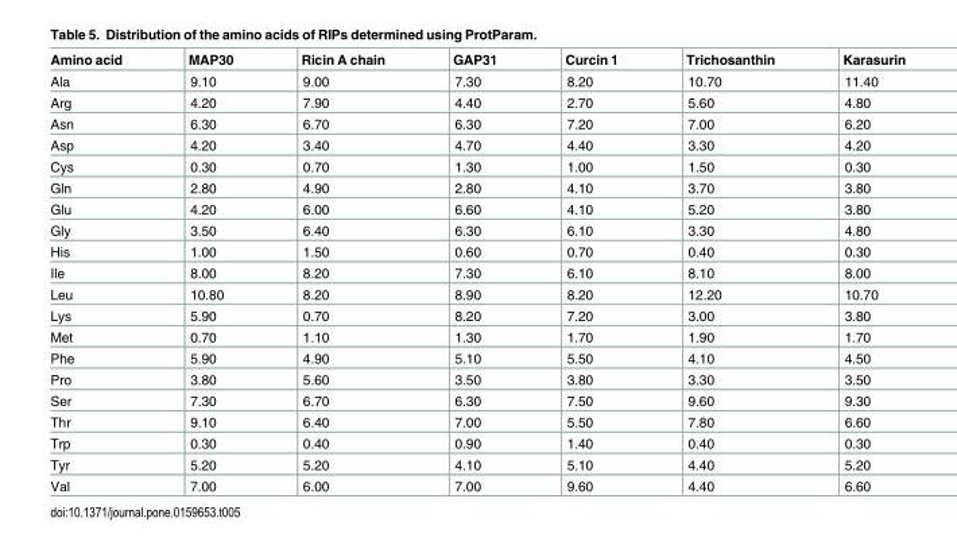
<table><thead><tr><td>Amino acid</td><td>MAP30</td><td>Ricin A chain</td><td>GAP31</td><td>Curcin 1</td><td>Trichosanthin</td><td>Karasurin</td></tr></thead><tbody><tr><td>Ala</td><td>9.10</td><td>9.00</td><td>7.30</td><td>8.20</td><td>10.70</td><td>11.40</td></tr><tr><td>Arg</td><td>4.20</td><td>7.90</td><td>4.40</td><td>2.70</td><td>5.60</td><td>4.80</td></tr><tr><td>Asn</td><td>6.30</td><td>6.70</td><td>6.30</td><td>7.20</td><td>7.00</td><td>6.20</td></tr><tr><td>Asp</td><td>4.20</td><td>3.40</td><td>4.70</td><td>4.40</td><td>3.30</td><td>4.20</td></tr><tr><td>Cys</td><td>0.30</td><td>0.70</td><td>1.30</td><td>1.00</td><td>1.50</td><td>0.30</td></tr><tr><td>Gln</td><td>2.80</td><td>4.90</td><td>2.80</td><td>4.10</td><td>3.70</td><td>3.80</td></tr><tr><td>Glu</td><td>4.20</td><td>6.00</td><td>6.60</td><td>4.10</td><td>5.20</td><td>3.80</td></tr><tr><td>Gly</td><td>3.50</td><td>6.40</td><td>6.30</td><td>6.10</td><td>3.30</td><td>4.80</td></tr><tr><td>His</td><td>1.00</td><td>1.50</td><td>0.60</td><td>0.70</td><td>0.40</td><td>0.30</td></tr><tr><td>Ile</td><td>8.00</td><td>8.20</td><td>7.30</td><td>6.10</td><td>8.10</td><td>8.00</td></tr><tr><td>Leu</td><td>10.80</td><td>8.20</td><td>8.90</td><td>8.20</td><td>12.20</td><td>10.70</td></tr><tr><td>Lys</td><td>5.90</td><td>0.70</td><td>8.20</td><td>7.20</td><td>3.00</td><td>3.80</td></tr><tr><td>Met</td><td>0.70</td><td>1.10</td><td>1.30</td><td>1.70</td><td>1.90</td><td>1.70</td></tr><tr><td>Phe</td><td>5.90</td><td>4.90</td><td>5.10</td><td>5.50</td><td>4.10</td><td>4.50</td></tr><tr><td>Pro</td><td>3.80</td><td>5.60</td><td>3.50</td><td>3.80</td><td>3.30</td><td>3.50</td></tr><tr><td>Ser</td><td>7.30</td><td>6.70</td><td>6.30</td><td>7.50</td><td>9.60</td><td>9.30</td></tr><tr><td>Thr</td><td>9.10</td><td>6.40</td><td>7.00</td><td>5.50</td><td>7.80</td><td>6.60</td></tr><tr><td>Trp</td><td>0.30</td><td>0.40</td><td>0.90</td><td>1.40</td><td>0.40</td><td>0.30</td></tr><tr><td>Tyr</td><td>5.20</td><td>5.20</td><td>4.10</td><td>5.10</td><td>4.40</td><td>5.20</td></tr><tr><td>Val</td><td>7.00</td><td>6.00</td><td>7.00</td><td>9.60</td><td>4.40</td><td>6.60</td></tr></tbody></table>